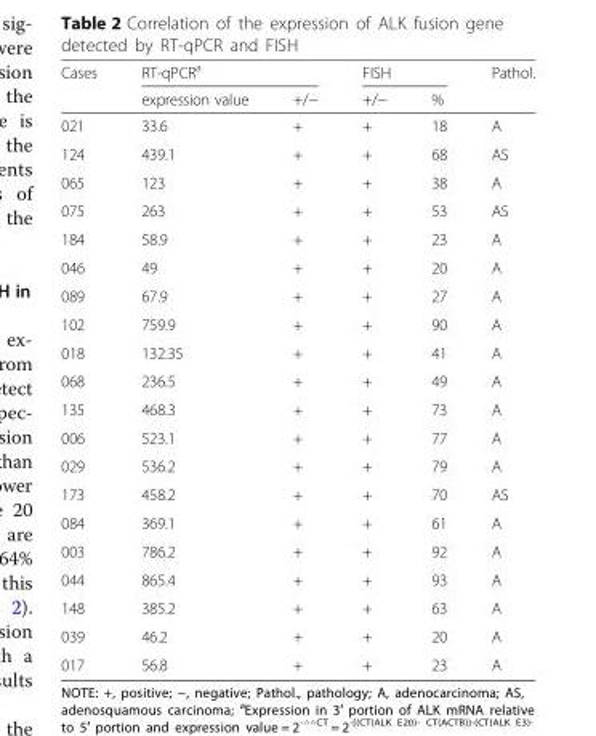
<table><thead><tr><td rowspan="2">Cases</td><td colspan="2">RT-qPCR<sup>a</sup></td><td colspan="2">FISH</td><td rowspan="2">Pathol.</td></tr><tr><td>expression value</td><td>+/−</td><td>+/−</td><td>%</td></tr></thead><tbody><tr><td>021</td><td>33.6</td><td>+</td><td>+</td><td>18</td><td>A</td></tr><tr><td>124</td><td>439.1</td><td>+</td><td>+</td><td>68</td><td>AS</td></tr><tr><td>065</td><td>123</td><td>+</td><td>+</td><td>38</td><td>A</td></tr><tr><td>075</td><td>263</td><td>+</td><td>+</td><td>53</td><td>AS</td></tr><tr><td>184</td><td>58.9</td><td>+</td><td>+</td><td>23</td><td>A</td></tr><tr><td>046</td><td>49</td><td>+</td><td>+</td><td>20</td><td>A</td></tr><tr><td>089</td><td>67.9</td><td>+</td><td>+</td><td>27</td><td>A</td></tr><tr><td>102</td><td>759.9</td><td>+</td><td>+</td><td>90</td><td>A</td></tr><tr><td>018</td><td>132.35</td><td>+</td><td>+</td><td>41</td><td>A</td></tr><tr><td>068</td><td>236.5</td><td>+</td><td>+</td><td>49</td><td>A</td></tr><tr><td>135</td><td>468.3</td><td>+</td><td>+</td><td>73</td><td>A</td></tr><tr><td>006</td><td>523.1</td><td>+</td><td>+</td><td>77</td><td>A</td></tr><tr><td>029</td><td>536.2</td><td>+</td><td>+</td><td>79</td><td>A</td></tr><tr><td>173</td><td>458.2</td><td>+</td><td>+</td><td>70</td><td>AS</td></tr><tr><td>084</td><td>369.1</td><td>+</td><td>+</td><td>61</td><td>A</td></tr><tr><td>003</td><td>786.2</td><td>+</td><td>+</td><td>92</td><td>A</td></tr><tr><td>044</td><td>865.4</td><td>+</td><td>+</td><td>93</td><td>A</td></tr><tr><td>148</td><td>385.2</td><td>+</td><td>+</td><td>63</td><td>A</td></tr><tr><td>039</td><td>46.2</td><td>+</td><td>+</td><td>20</td><td>A</td></tr><tr><td>017</td><td>56.8</td><td>+</td><td>+</td><td>23</td><td>A</td></tr></tbody></table>